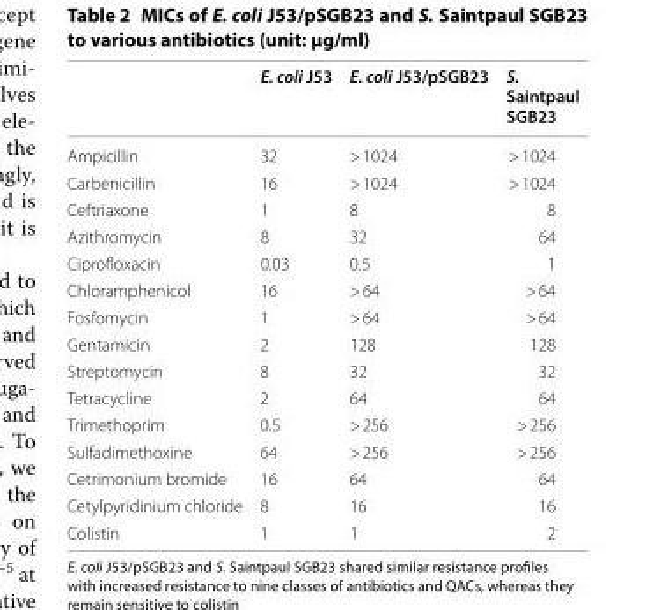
<table><thead><tr><td></td><td>E. coli J53</td><td>E. coli J53/pSGB23</td><td>S. Saintpaul SGB23</td></tr></thead><tbody><tr><td>Ampicillin</td><td>32</td><td>&gt; 1024</td><td>&gt; 1024</td></tr><tr><td>Carbenicillin</td><td>16</td><td>&gt; 1024</td><td>&gt; 1024</td></tr><tr><td>Ceftriaxone</td><td>1</td><td>8</td><td>8</td></tr><tr><td>Azithromycin</td><td>8</td><td>32</td><td>64</td></tr><tr><td>Ciprofloxacin</td><td>0.03</td><td>0.5</td><td>1</td></tr><tr><td>Chloramphenicol</td><td>16</td><td>&gt; 64</td><td>&gt; 64</td></tr><tr><td>Fosfomycin</td><td>1</td><td>&gt; 64</td><td>&gt; 64</td></tr><tr><td>Gentamicin</td><td>2</td><td>128</td><td>128</td></tr><tr><td>Streptomycin</td><td>8</td><td>32</td><td>32</td></tr><tr><td>Tetracycline</td><td>2</td><td>64</td><td>64</td></tr><tr><td>Trimethoprim</td><td>0.5</td><td>&gt; 256</td><td>&gt; 256</td></tr><tr><td>Sulfadimethoxine</td><td>64</td><td>&gt; 256</td><td>&gt; 256</td></tr><tr><td>Cetrimonium bromide</td><td>16</td><td>64</td><td>64</td></tr><tr><td>Cetylpyridinium chloride</td><td>8</td><td>16</td><td>16</td></tr><tr><td>Colistin</td><td>1</td><td>1</td><td>2</td></tr></tbody></table>